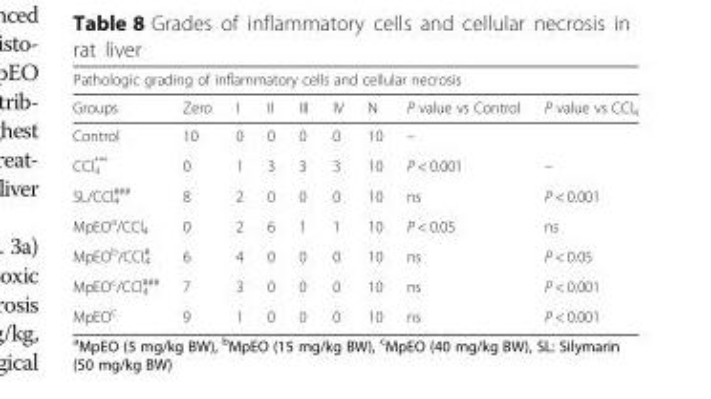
<table><thead><tr><td colspan="9">Pathologic grading of inflammatory cells and cellular necrosis</td></tr><tr><td>Groups</td><td>Zero</td><td>I</td><td>II</td><td>III</td><td>IV</td><td>N</td><td>P value vs Control</td><td>P value vs CCl<sub>4</sub></td></tr></thead><tbody><tr><td>Control</td><td>10</td><td>0</td><td>0</td><td>0</td><td>0</td><td>10</td><td>–</td><td></td></tr><tr><td>CCl<sub>4</sub> ***</td><td>0</td><td>1</td><td>3</td><td>3</td><td>3</td><td>10</td><td>P &lt; 0.001</td><td>–</td></tr><tr><td>SL/CCl<sub>4</sub> <sup>###</sup></td><td>8</td><td>2</td><td>0</td><td>0</td><td>0</td><td>10</td><td>ns</td><td>P &lt; 0.001</td></tr><tr><td>MpEO<sup>a</sup>/CCl<sub>4</sub></td><td>0</td><td>2</td><td>6</td><td>1</td><td>1</td><td>10</td><td>P &lt; 0.05</td><td>ns</td></tr><tr><td>MpEO<sup>b</sup>/CCl<sub>4</sub> <sup>#</sup></td><td>6</td><td>4</td><td>0</td><td>0</td><td>0</td><td>10</td><td>ns</td><td>P &lt; 0.05</td></tr><tr><td>MpEO<sup>c</sup>/CCl<sub>4</sub> <sup>###</sup></td><td>7</td><td>3</td><td>0</td><td>0</td><td>0</td><td>10</td><td>ns</td><td>P &lt; 0.001</td></tr><tr><td>MpEO<sup>c</sup></td><td>9</td><td>1</td><td>0</td><td>0</td><td>0</td><td>10</td><td>ns</td><td>P &lt; 0.001</td></tr></tbody></table>